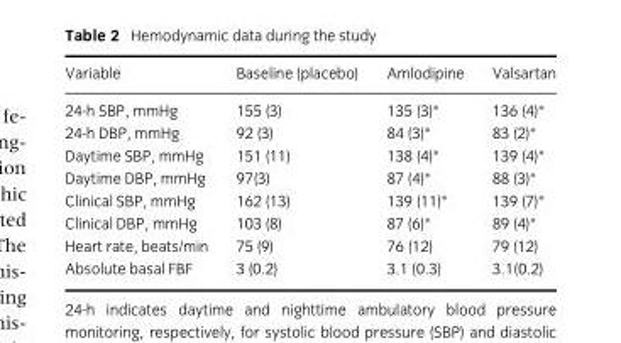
<table><thead><tr><td>Variable</td><td>Baseline (placebo)</td><td>Amlodipine</td><td>Valsartan</td></tr></thead><tbody><tr><td>24-h SBP, mmHg</td><td>155 (3)</td><td>135 (3)∗</td><td>136 (4)∗</td></tr><tr><td>24-h DBP, mmHg</td><td>92 (3)</td><td>84 (3)∗</td><td>83 (2)∗</td></tr><tr><td>Daytime SBP, mmHg</td><td>151 (11)</td><td>138 (4)∗</td><td>139 (4)∗</td></tr><tr><td>Daytime DBP, mmHg</td><td>97(3)</td><td>87 (4)∗</td><td>88 (3)∗</td></tr><tr><td>Clinical SBP, mmHg</td><td>162 (13)</td><td>139 (11)∗</td><td>139 (7)∗</td></tr><tr><td>Clinical DBP, mmHg</td><td>103 (8)</td><td>87 (6)∗</td><td>89 (4)∗</td></tr><tr><td>Heart rate, beats/min</td><td>75 (9)</td><td>76 (12)</td><td>79 (12)</td></tr><tr><td>Absolute basal FBF</td><td>3 (0.2)</td><td>3.1 (0.3)</td><td>3.1(0.2)</td></tr></tbody></table>